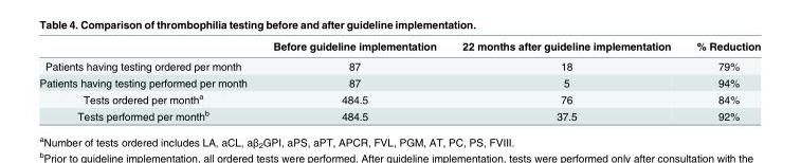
<table><thead><tr><td></td><td>Before guideline implementation</td><td>22 months after guideline implementation</td><td>% Reduction</td></tr></thead><tbody><tr><td>Patients having testing ordered per month</td><td>87</td><td>18</td><td>79%</td></tr><tr><td>Patients having testing performed per month</td><td>87</td><td>5</td><td>94%</td></tr><tr><td>Tests ordered per month<sup>a</sup></td><td>484.5</td><td>76</td><td>84%</td></tr><tr><td>Tests performed per month<sup>b</sup></td><td>484.5</td><td>37.5</td><td>92%</td></tr></tbody></table>